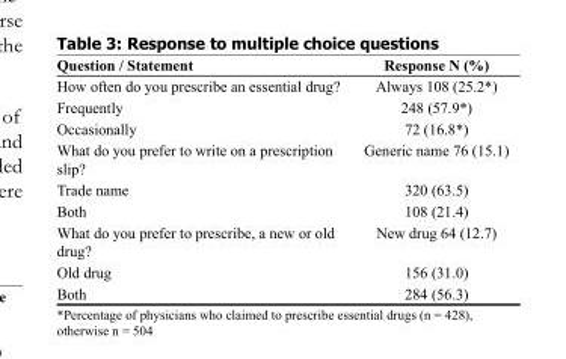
<table><thead><tr><td>Question / Statement</td><td>Response N (%)</td></tr></thead><tbody><tr><td>How often do you prescribe an essential drug?</td><td>Always 108 (25.2*)</td></tr><tr><td>Frequently</td><td>248 (57.9*)</td></tr><tr><td>Occasionally</td><td>72 (16.8*)</td></tr><tr><td>What do you prefer to write on a prescription slip?</td><td>Generic name 76 (15.1)</td></tr><tr><td>Trade name</td><td>320 (63.5)</td></tr><tr><td>Both</td><td>108 (21.4)</td></tr><tr><td>What do you prefer to prescribe, a new or old drug?</td><td>New drug 64 (12.7)</td></tr><tr><td>Old drug</td><td>156 (31.0)</td></tr><tr><td>Both</td><td>284 (56.3)</td></tr></tbody></table>